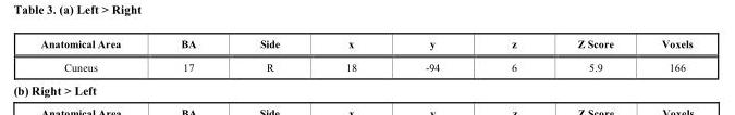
<table><thead><tr><td>Anatomical Area</td><td>BA</td><td>Side</td><td>x</td><td>y</td><td>z</td><td>Z Score</td><td>Voxels</td></tr></thead><tbody><tr><td>Cuneus</td><td>17</td><td>R</td><td>18</td><td>-94</td><td>6</td><td>5.9</td><td>166</td></tr></tbody></table>